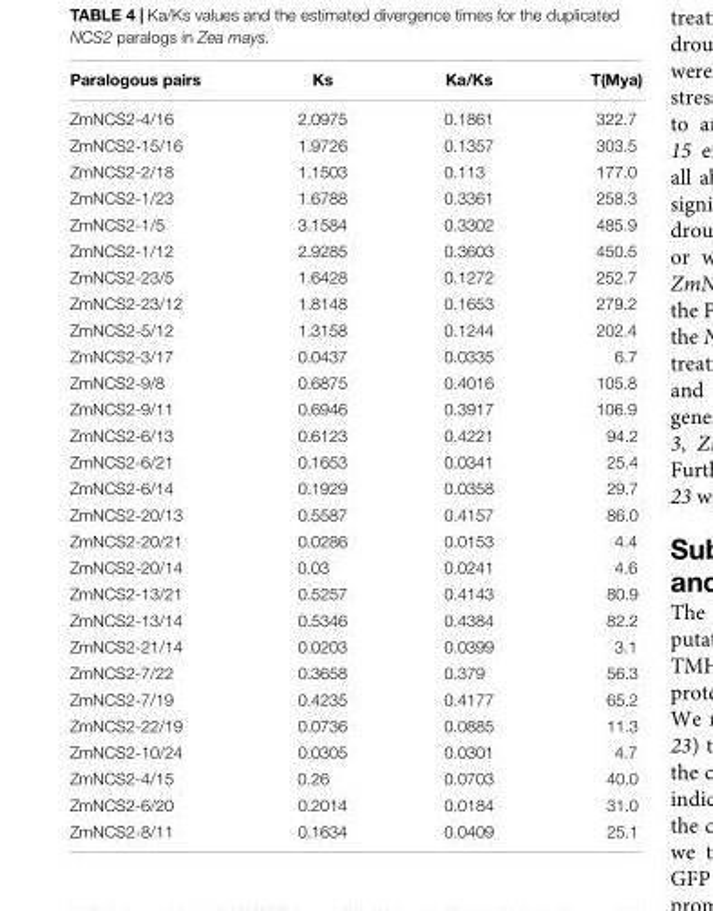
<table><thead><tr><td>Paralogous pairs</td><td>Ks</td><td>Ka/Ks</td><td>T(Mya)</td></tr></thead><tbody><tr><td>ZmNCS2-4/16</td><td>2.0975</td><td>0.1861</td><td>322.7</td></tr><tr><td>ZmNCS2-15/16</td><td>1.9726</td><td>0.1357</td><td>303.5</td></tr><tr><td>ZmNCS2-2/18</td><td>1.1503</td><td>0.113</td><td>177.0</td></tr><tr><td>ZmNCS2-1/23</td><td>1.6788</td><td>0.3361</td><td>258.3</td></tr><tr><td>ZmNCS2-1/5</td><td>3.1584</td><td>0.3302</td><td>485.9</td></tr><tr><td>ZmNCS2-1/12</td><td>2.9285</td><td>0.3603</td><td>450.5</td></tr><tr><td>ZmNCS2-23/5</td><td>1.6428</td><td>0.1272</td><td>252.7</td></tr><tr><td>ZmNCS2-23/12</td><td>1.8148</td><td>0.1653</td><td>279.2</td></tr><tr><td>ZmNCS2-5/12</td><td>1.3158</td><td>0.1244</td><td>202.4</td></tr><tr><td>ZmNCS2-3/17</td><td>0.0437</td><td>0.0335</td><td>6.7</td></tr><tr><td>ZmNCS2-9/8</td><td>0.6875</td><td>0.4016</td><td>105.8</td></tr><tr><td>ZmNCS2-9/11</td><td>0.6946</td><td>0.3917</td><td>106.9</td></tr><tr><td>ZmNCS2-6/13</td><td>0.6123</td><td>0.4221</td><td>94.2</td></tr><tr><td>ZmNCS2-6/21</td><td>0.1653</td><td>0.0341</td><td>25.4</td></tr><tr><td>ZmNCS2-6/14</td><td>0.1929</td><td>0.0358</td><td>29.7</td></tr><tr><td>ZmNCS2-20/13</td><td>0.5587</td><td>0.4157</td><td>86.0</td></tr><tr><td>ZmNCS2-20/21</td><td>0.0286</td><td>0.0153</td><td>4.4</td></tr><tr><td>ZmNCS2-20/14</td><td>0.03</td><td>0.0241</td><td>4.6</td></tr><tr><td>ZmNCS2-13/21</td><td>0.5257</td><td>0.4143</td><td>80.9</td></tr><tr><td>ZmNCS2-13/14</td><td>0.5346</td><td>0.4384</td><td>82.2</td></tr><tr><td>ZmNCS2-21/14</td><td>0.0203</td><td>0.0399</td><td>3.1</td></tr><tr><td>ZmNCS2-7/22</td><td>0.3658</td><td>0.379</td><td>56.3</td></tr><tr><td>ZmNCS2-7/19</td><td>0.4235</td><td>0.4177</td><td>65.2</td></tr><tr><td>ZmNCS2-22/19</td><td>0.0736</td><td>0.0885</td><td>11.3</td></tr><tr><td>ZmNCS2-10/24</td><td>0.0305</td><td>0.0301</td><td>4.7</td></tr><tr><td>ZmNCS2-4/15</td><td>0.26</td><td>0.0703</td><td>40.0</td></tr><tr><td>ZmNCS2-6/20</td><td>0.2014</td><td>0.0184</td><td>31.0</td></tr><tr><td>ZmNCS2-8/11</td><td>0.1634</td><td>0.0409</td><td>25.1</td></tr></tbody></table>